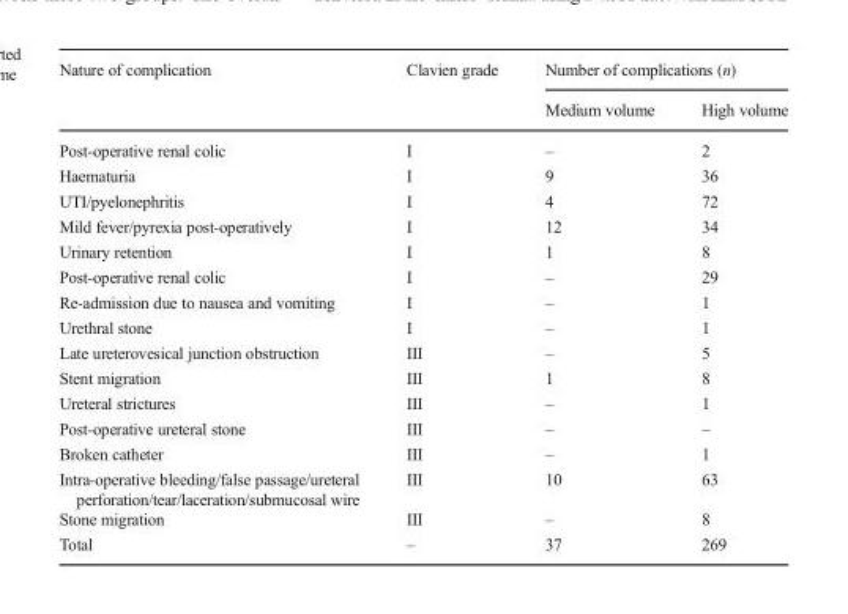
<table><thead><tr><td rowspan="2">Nature of complication</td><td rowspan="2">Clavien grade</td><td colspan="2">Number of complications (n)</td></tr><tr><td>Medium volume</td><td>High volume</td></tr></thead><tbody><tr><td>Post-operative renal colic</td><td>I</td><td>–</td><td>2</td></tr><tr><td>Haematuria</td><td>I</td><td>9</td><td>36</td></tr><tr><td>UTI/pyelonephritis</td><td>I</td><td>4</td><td>72</td></tr><tr><td>Mild fever/pyrexia post-operatively</td><td>I</td><td>12</td><td>34</td></tr><tr><td>Urinary retention</td><td>I</td><td>1</td><td>8</td></tr><tr><td>Post-operative renal colic</td><td>I</td><td>–</td><td>29</td></tr><tr><td>Re-admission due to nausea and vomiting</td><td>I</td><td>–</td><td>1</td></tr><tr><td>Urethral stone</td><td>I</td><td>–</td><td>1</td></tr><tr><td>Late ureterovesical junction obstruction</td><td>III</td><td>–</td><td>5</td></tr><tr><td>Stent migration</td><td>III</td><td>1</td><td>8</td></tr><tr><td>Ureteral strictures</td><td>III</td><td>–</td><td>1</td></tr><tr><td>Post-operative ureteral stone</td><td>III</td><td>–</td><td>–</td></tr><tr><td>Broken catheter</td><td>III</td><td>–</td><td>1</td></tr><tr><td>Intra-operative bleeding/false passage/ureteral perforation/tear/laceration/submucosal wire</td><td>III</td><td>10</td><td>63</td></tr><tr><td>Stone migration</td><td>III</td><td>–</td><td>8</td></tr><tr><td>Total</td><td>–</td><td>37</td><td>269</td></tr></tbody></table>